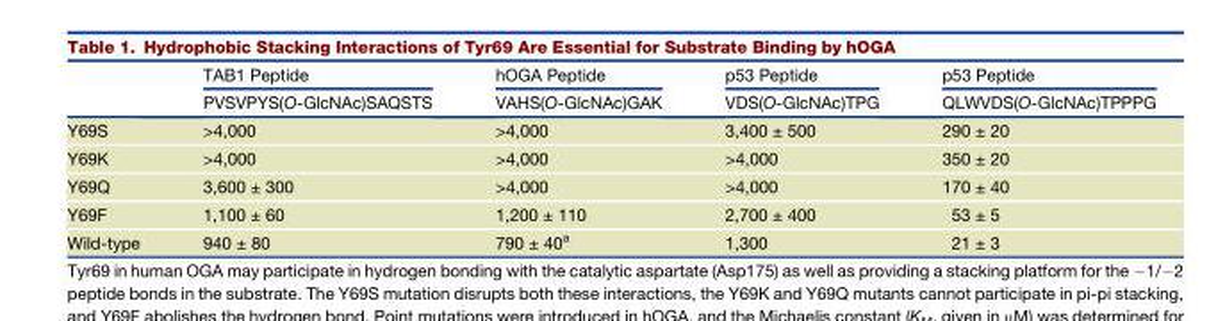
<table><thead><tr><td rowspan="2"></td><td rowspan="2">TAB1 Peptide PVSVPYS(O-GlcNAc)SAQSTS</td><td rowspan="2">hOGA Peptide VAHS(O-GlcNAc)GAK</td><td rowspan="2">p53 Peptide VDS(O-GlcNAc)TPG</td><td rowspan="2">p53 Peptide QLWVDS(O-GlcNAc)TPPPG</td></tr><tr></tr></thead><tbody><tr><td>Y69S</td><td>&gt;4,000</td><td>&gt;4,000</td><td>3,400 ± 500</td><td>290 ± 20</td></tr><tr><td>Y69K</td><td>&gt;4,000</td><td>&gt;4,000</td><td>&gt;4,000</td><td>350 ± 20</td></tr><tr><td>Y69Q</td><td>3,600 ± 300</td><td>&gt;4,000</td><td>&gt;4,000</td><td>170 ± 40</td></tr><tr><td>Y69F</td><td>1,100 ± 60</td><td>1,200 ± 110</td><td>2,700 ± 400</td><td>53 ± 5</td></tr><tr><td>Wild-type</td><td>940 ± 80</td><td>790 ± 40<sup>a</sup></td><td>1,300</td><td>21 ± 3</td></tr></tbody></table>